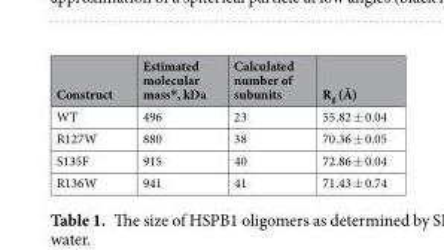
<table><thead><tr><td>Construct</td><td>Estimated molecular mass*, kDa</td><td>Calculated number of subunits</td><td>R<sub>g</sub> (Å)</td></tr></thead><tbody><tr><td>WT</td><td>496</td><td>23</td><td>55.82 ± 0.04</td></tr><tr><td>R127W</td><td>880</td><td>38</td><td>70.36 ± 0.05</td></tr><tr><td>S135F</td><td>915</td><td>40</td><td>72.86 ± 0.04</td></tr><tr><td>R136W</td><td>941</td><td>41</td><td>71.43 ± 0.74</td></tr></tbody></table>